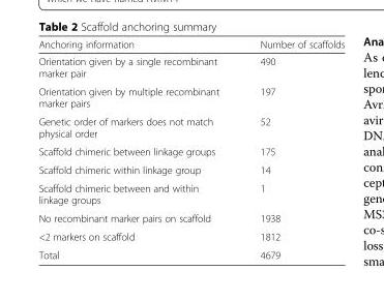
<table><thead><tr><td>Anchoring information</td><td>Number of scaffolds</td></tr></thead><tbody><tr><td>Orientation given by a single recombinant marker pair</td><td>490</td></tr><tr><td>Orientation given by multiple recombinant marker pairs</td><td>197</td></tr><tr><td>Genetic order of markers does not match physical order</td><td>52</td></tr><tr><td>Scaffold chimeric between linkage groups</td><td>175</td></tr><tr><td>Scaffold chimeric within linkage group</td><td>14</td></tr><tr><td>Scaffold chimeric between and within linkage groups</td><td>1</td></tr><tr><td>No recombinant marker pairs on scaffold</td><td>1938</td></tr><tr><td>&lt;2 markers on scaffold</td><td>1812</td></tr><tr><td>Total</td><td>4679</td></tr></tbody></table>